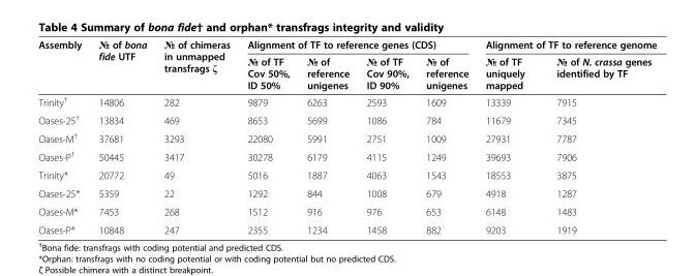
<table><thead><tr><td rowspan="2">Assembly</td><td rowspan="2">№ of bona fide UTF</td><td rowspan="2">№ of chimeras in unmapped transfrags ζ</td><td colspan="4">Alignment of TF to reference genes (CDS)</td><td colspan="2">Alignment of TF to reference genome</td></tr><tr><td>№ of TF Cov 50%, ID 50%</td><td>№ of reference unigenes</td><td>№ of TF Cov 90%, ID 90%</td><td>№ of reference unigenes</td><td>№ of TF uniquely mapped</td><td>№ of N. crassa genes identified by TF</td></tr></thead><tbody><tr><td>Trinity<sup>†</sup></td><td>14806</td><td>282</td><td>9879</td><td>6263</td><td>2593</td><td>1609</td><td>13339</td><td>7915</td></tr><tr><td>Oases-25<sup>†</sup></td><td>13834</td><td>469</td><td>8653</td><td>5699</td><td>1086</td><td>784</td><td>11679</td><td>7345</td></tr><tr><td>Oases-M<sup>†</sup></td><td>37681</td><td>3293</td><td>22080</td><td>5991</td><td>2751</td><td>1009</td><td>27931</td><td>7787</td></tr><tr><td>Oases-P<sup>†</sup></td><td>50445</td><td>3417</td><td>30278</td><td>6179</td><td>4115</td><td>1249</td><td>39693</td><td>7906</td></tr><tr><td>Trinity*</td><td>20772</td><td>49</td><td>5016</td><td>1887</td><td>4063</td><td>1543</td><td>18553</td><td>3875</td></tr><tr><td>Oases-25*</td><td>5359</td><td>22</td><td>1292</td><td>844</td><td>1008</td><td>679</td><td>4918</td><td>1287</td></tr><tr><td>Oases-M*</td><td>7453</td><td>268</td><td>1512</td><td>916</td><td>976</td><td>653</td><td>6148</td><td>1483</td></tr><tr><td>Oases-P*</td><td>10848</td><td>247</td><td>2355</td><td>1234</td><td>1458</td><td>882</td><td>9203</td><td>1919</td></tr></tbody></table>